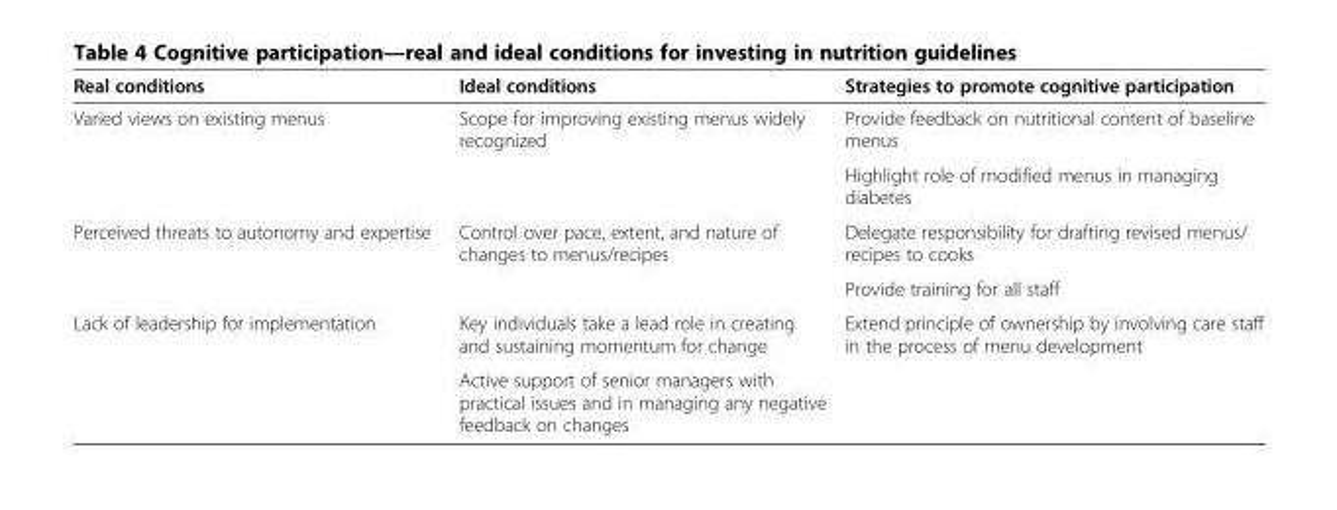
<table><thead><tr><td>Real conditions</td><td>Ideal conditions</td><td>Strategies to promote cognitive participation</td></tr></thead><tbody><tr><td rowspan="2">Varied views on existing menus</td><td>Scope for improving existing menus widely recognized</td><td>Provide feedback on nutritional content of baseline menus</td></tr><tr><td></td><td>Highlight role of modified menus in managing diabetes</td></tr><tr><td rowspan="2">Perceived threats to autonomy and expertise</td><td>Control over pace, extent, and nature of changes to menus/recipes</td><td>Delegate responsibility for drafting revised menus/ recipes to cooks</td></tr><tr><td></td><td>Provide training for all staff</td></tr><tr><td rowspan="2">Lack of leadership for implementation</td><td>Key individuals take a lead role in creating and sustaining momentum for change</td><td>Extend principle of ownership by involving care staff in the process of menu development</td></tr><tr><td>Active support of senior managers with practical issues and in managing any negative feedback on changes</td><td></td></tr></tbody></table>